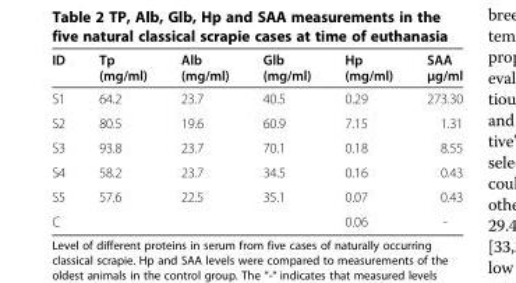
<table><thead><tr><td>ID</td><td>Tp (mg/ml)</td><td>Alb (mg/ml)</td><td>Glb (mg/ml)</td><td>Hp (mg/ml)</td><td>SAA μg/ml</td></tr></thead><tbody><tr><td>S1</td><td>64.2</td><td>23.7</td><td>40.5</td><td>0.29</td><td>273.30</td></tr><tr><td>S2</td><td>80.5</td><td>19.6</td><td>60.9</td><td>7.15</td><td>1.31</td></tr><tr><td>S3</td><td>93.8</td><td>23.7</td><td>70.1</td><td>0.18</td><td>8.55</td></tr><tr><td>S4</td><td>58.2</td><td>23.7</td><td>34.5</td><td>0.16</td><td>0.43</td></tr><tr><td>S5</td><td>57.6</td><td>22.5</td><td>35.1</td><td>0.07</td><td>0.43</td></tr><tr><td>C</td><td></td><td></td><td></td><td>0.06</td><td>-</td></tr></tbody></table>